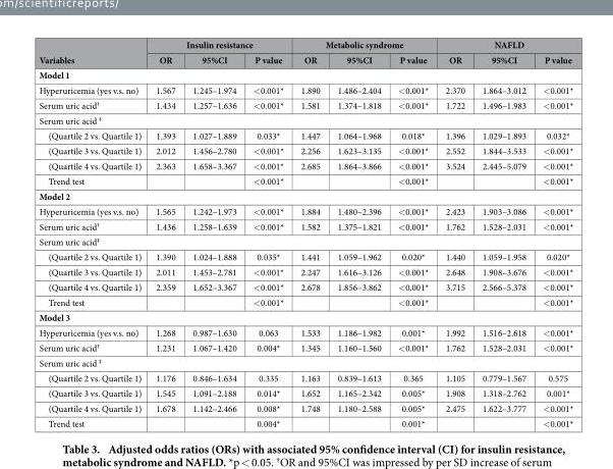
<table><thead><tr><td rowspan="2">Variables</td><td colspan="3">Insulin resistance</td><td colspan="3">Metabolic syndrome</td><td colspan="3">NAFLD</td></tr><tr><td>OR</td><td>95%CI</td><td>P value</td><td>OR</td><td>95%CI</td><td>P value</td><td>OR</td><td>95%CI</td><td>P value</td></tr></thead><tbody><tr><td colspan="10">Model 1</td></tr><tr><td>Hyperuricemia (yes v.s. no)</td><td>1.567</td><td>1.245–1.974</td><td>&lt; 0.001*</td><td>1.890</td><td>1.486–2.404</td><td>&lt; 0.001*</td><td>2.370</td><td>1.864–3.012</td><td>&lt; 0.001*</td></tr><tr><td>Serum uric acid†</td><td>1.434</td><td>1.257–1.636</td><td>&lt; 0.001*</td><td>1.581</td><td>1.374–1.818</td><td>&lt; 0.001*</td><td>1.722</td><td>1.496–1.983</td><td>&lt; 0.001*</td></tr><tr><td colspan="10">Serum uric acid <sup>‡</sup></td></tr><tr><td>(Quartile 2 vs. Quartile 1)</td><td>1.393</td><td>1.027–1.889</td><td>0.033*</td><td>1.447</td><td>1.064–1.968</td><td>0.018*</td><td>1.396</td><td>1.029–1.893</td><td>0.032*</td></tr><tr><td>(Quartile 3 vs. Quartile 1)</td><td>2.012</td><td>1.456–2.780</td><td>&lt; 0.001*</td><td>2.256</td><td>1.623–3.135</td><td>&lt; 0.001*</td><td>2.552</td><td>1.844–3.533</td><td>&lt; 0.001*</td></tr><tr><td>(Quartile 4 vs. Quartile 1)</td><td>2.363</td><td>1.658–3.367</td><td>&lt; 0.001*</td><td>2.685</td><td>1.864–3.866</td><td>&lt; 0.001*</td><td>3.524</td><td>2.445–5.079</td><td>&lt; 0.001*</td></tr><tr><td>Trend test</td><td></td><td></td><td>&lt; 0.001*</td><td></td><td></td><td>&lt; 0.001*</td><td></td><td></td><td>&lt; 0.001*</td></tr><tr><td colspan="10">Model 2</td></tr><tr><td>Hyperuricemia (yes v.s. no)</td><td>1.565</td><td>1.242–1.973</td><td>&lt; 0.001*</td><td>1.884</td><td>1.480–2.396</td><td>&lt; 0.001*</td><td>2.423</td><td>1.903–3.086</td><td>&lt; 0.001*</td></tr><tr><td>Serum uric acid†</td><td>1.436</td><td>1.258–1.639</td><td>&lt; 0.001*</td><td>1.582</td><td>1.375–1.821</td><td>&lt; 0.001*</td><td>1.762</td><td>1.528–2.031</td><td>&lt; 0.001*</td></tr><tr><td colspan="10">Serum uric acid‡</td></tr><tr><td>(Quartile 2 vs. Quartile 1)</td><td>1.390</td><td>1.024–1.888</td><td>0.035*</td><td>1.441</td><td>1.059–1.962</td><td>0.020*</td><td>1.440</td><td>1.059–1.958</td><td>0.020*</td></tr><tr><td>(Quartile 3 vs. Quartile 1)</td><td>2.011</td><td>1.453–2.781</td><td>&lt; 0.001*</td><td>2.247</td><td>1.616–3.126</td><td>&lt; 0.001*</td><td>2.648</td><td>1.908–3.676</td><td>&lt; 0.001*</td></tr><tr><td>(Quartile 4 vs. Quartile 1)</td><td>2.359</td><td>1.652–3.367</td><td>&lt; 0.001*</td><td>2.678</td><td>1.856–3.862</td><td>&lt; 0.001*</td><td>3.715</td><td>2.566–5.378</td><td>&lt; 0.001*</td></tr><tr><td>Trend test</td><td></td><td></td><td>&lt; 0.001*</td><td></td><td></td><td>&lt; 0.001*</td><td></td><td></td><td>&lt; 0.001*</td></tr><tr><td colspan="10">Model 3</td></tr><tr><td>Hyperuricemia (yes v.s. no)</td><td>1.268</td><td>0.987–1.630</td><td>0.063</td><td>1.533</td><td>1.186–1.982</td><td>0.001*</td><td>1.992</td><td>1.516–2.618</td><td>&lt; 0.001*</td></tr><tr><td>Serum uric acid†</td><td>1.231</td><td>1.067–1.420</td><td>0.004*</td><td>1.345</td><td>1.160–1.560</td><td>&lt; 0.001*</td><td>1.762</td><td>1.528–2.031</td><td>&lt; 0.001*</td></tr><tr><td colspan="10">Serum uric acid <sup>‡</sup></td></tr><tr><td>(Quartile 2 vs. Quartile 1)</td><td>1.176</td><td>0.846–1.634</td><td>0.335</td><td>1.163</td><td>0.839–1.613</td><td>0.365</td><td>1.105</td><td>0.779–1.567</td><td>0.575</td></tr><tr><td>(Quartile 3 vs. Quartile 1)</td><td>1.545</td><td>1.091–2.188</td><td>0.014*</td><td>1.652</td><td>1.165–2.342</td><td>0.005*</td><td>1.908</td><td>1.318–2.762</td><td>0.001*</td></tr><tr><td>(Quartile 4 vs. Quartile 1)</td><td>1.678</td><td>1.142–2.466</td><td>0.008*</td><td>1.748</td><td>1.180–2.588</td><td>0.005*</td><td>2.475</td><td>1.622–3.777</td><td>&lt; 0.001*</td></tr><tr><td>Trend test</td><td></td><td></td><td>0.004*</td><td></td><td></td><td>0.001*</td><td></td><td></td><td>&lt; 0.001*</td></tr></tbody></table>